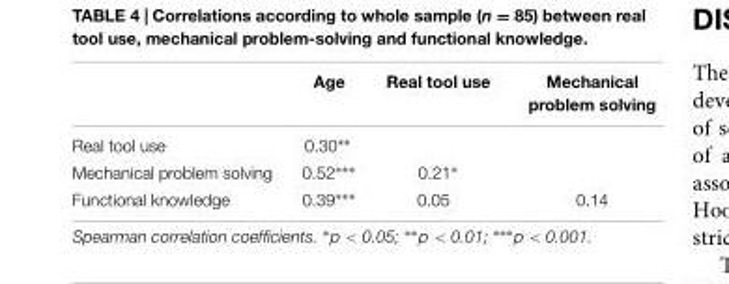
<table><thead><tr><td></td><td>Age</td><td>Real tool use</td><td>Mechanical problem solving</td></tr></thead><tbody><tr><td>Real tool use</td><td>0.30∗∗</td><td></td><td></td></tr><tr><td>Mechanical problem solving</td><td>0.52∗∗∗</td><td>0.21∗</td><td></td></tr><tr><td>Functional knowledge</td><td>0.39∗∗∗</td><td>0.05</td><td>0.14</td></tr></tbody></table>